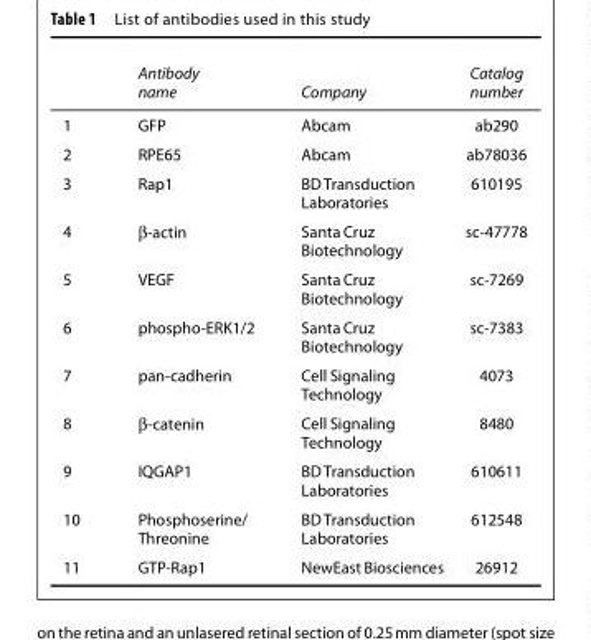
<table><thead><tr><td></td><td>Antibody name</td><td>Company</td><td>Catalog number</td></tr></thead><tbody><tr><td>1</td><td>GFP</td><td>Abcam</td><td>ab290</td></tr><tr><td>2</td><td>RPE65</td><td>Abcam</td><td>ab78036</td></tr><tr><td>3</td><td>Rap1</td><td>BD Transduction Laboratories</td><td>610195</td></tr><tr><td>4</td><td>β-actin</td><td>Santa Cruz Biotechnology</td><td>sc-47778</td></tr><tr><td>5</td><td>VEGF</td><td>Santa Cruz Biotechnology</td><td>sc-7269</td></tr><tr><td>6</td><td>phospho-ERK1/2</td><td>Santa Cruz Biotechnology</td><td>sc-7383</td></tr><tr><td>7</td><td>pan-cadherin</td><td>Cell Signaling Technology</td><td>4073</td></tr><tr><td>8</td><td>β-catenin</td><td>Cell Signaling Technology</td><td>8480</td></tr><tr><td>9</td><td>IQGAP1</td><td>BD Transduction Laboratories</td><td>610611</td></tr><tr><td>10</td><td>Phosphoserine/ Threonine</td><td>BD Transduction Laboratories</td><td>612548</td></tr><tr><td>11</td><td>GTP-Rap1</td><td>NewEast Biosciences</td><td>26912</td></tr></tbody></table>